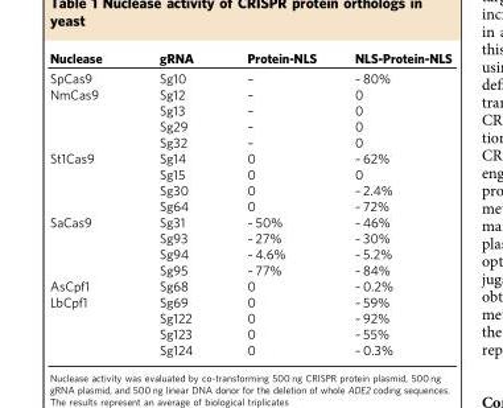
<table><thead><tr><td>Nuclease</td><td>gRNA</td><td>Protein-NLS</td><td>NLS-Protein-NLS</td></tr></thead><tbody><tr><td>SpCas9</td><td>Sg10</td><td>–</td><td>~ 80%</td></tr><tr><td rowspan="4">NmCas9</td><td>Sg12</td><td>–</td><td>0</td></tr><tr><td>Sg13</td><td>–</td><td>0</td></tr><tr><td>Sg29</td><td>–</td><td>0</td></tr><tr><td>Sg32</td><td>–</td><td>0</td></tr><tr><td rowspan="4">St1Cas9</td><td>Sg14</td><td>0</td><td>~ 62%</td></tr><tr><td>Sg15</td><td>0</td><td>0</td></tr><tr><td>Sg30</td><td>0</td><td>~ 2.4%</td></tr><tr><td>Sg64</td><td>0</td><td>~ 72%</td></tr><tr><td rowspan="4">SaCas9</td><td>Sg31</td><td>~ 50%</td><td>~ 46%</td></tr><tr><td>Sg93</td><td>~ 27%</td><td>~ 30%</td></tr><tr><td>Sg94</td><td>~ 4.6%</td><td>~ 5.2%</td></tr><tr><td>Sg95</td><td>~ 77%</td><td>~ 84%</td></tr><tr><td>AsCpf1</td><td>Sg68</td><td>0</td><td>~ 0.2%</td></tr><tr><td rowspan="4">LbCpf1</td><td>Sg69</td><td>0</td><td>~ 59%</td></tr><tr><td>Sg122</td><td>0</td><td>~ 92%</td></tr><tr><td>Sg123</td><td>0</td><td>~ 55%</td></tr><tr><td>Sg124</td><td>0</td><td>~ 0.3%</td></tr></tbody></table>